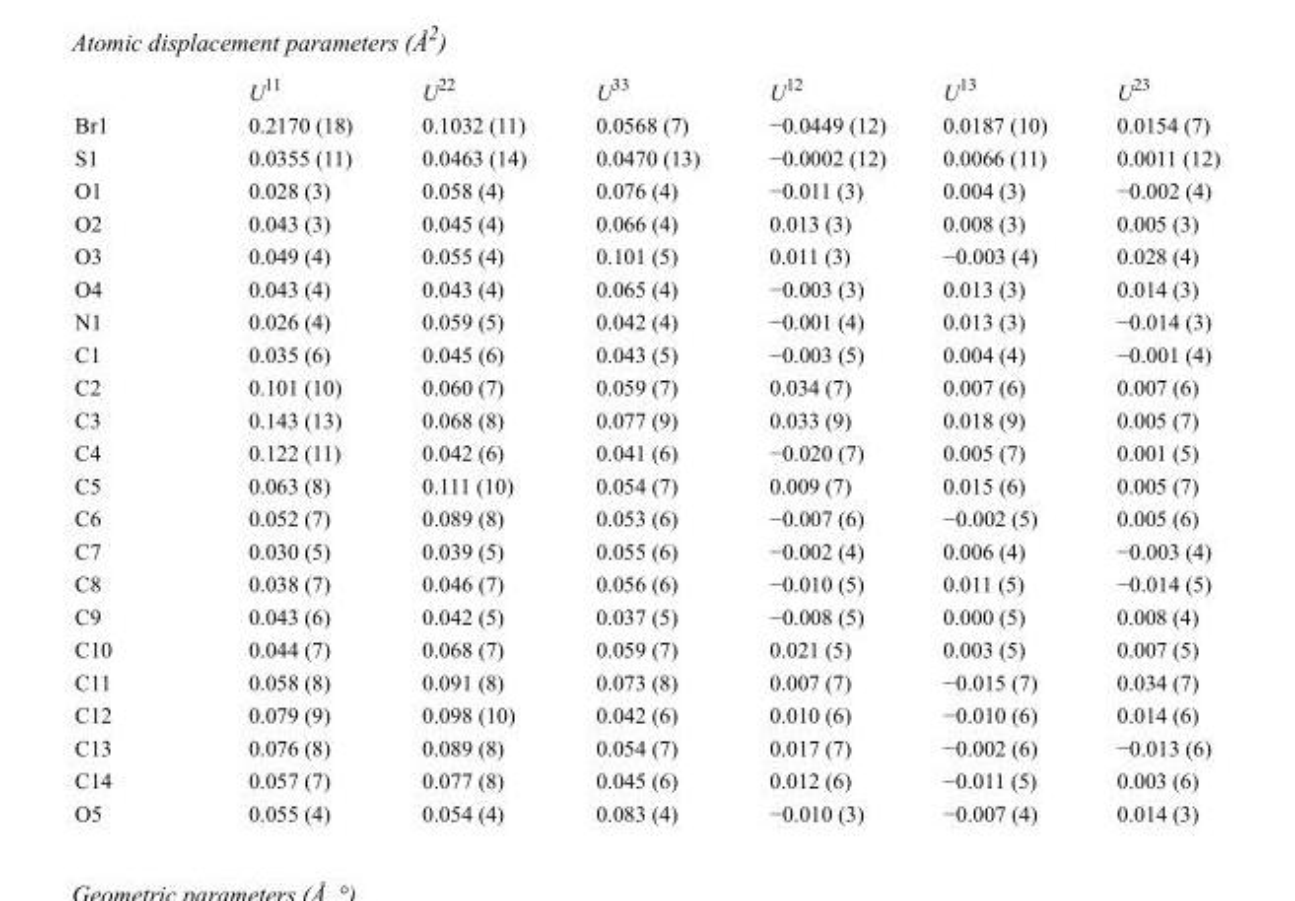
<table><thead><tr><td></td><td>U<sup>11</sup></td><td>U<sup>22</sup></td><td>U<sup>33</sup></td><td>U<sup>12</sup></td><td>U<sup>13</sup></td><td>U<sup>23</sup></td></tr></thead><tbody><tr><td>Br1</td><td>0.2170 (18)</td><td>0.1032 (11)</td><td>0.0568 (7)</td><td>−0.0449 (12)</td><td>0.0187 (10)</td><td>0.0154 (7)</td></tr><tr><td>S1</td><td>0.0355 (11)</td><td>0.0463 (14)</td><td>0.0470 (13)</td><td>−0.0002 (12)</td><td>0.0066 (11)</td><td>0.0011 (12)</td></tr><tr><td>O1</td><td>0.028 (3)</td><td>0.058 (4)</td><td>0.076 (4)</td><td>−0.011 (3)</td><td>0.004 (3)</td><td>−0.002 (4)</td></tr><tr><td>O2</td><td>0.043 (3)</td><td>0.045 (4)</td><td>0.066 (4)</td><td>0.013 (3)</td><td>0.008 (3)</td><td>0.005 (3)</td></tr><tr><td>O3</td><td>0.049 (4)</td><td>0.055 (4)</td><td>0.101 (5)</td><td>0.011 (3)</td><td>−0.003 (4)</td><td>0.028 (4)</td></tr><tr><td>O4</td><td>0.043 (4)</td><td>0.043 (4)</td><td>0.065 (4)</td><td>−0.003 (3)</td><td>0.013 (3)</td><td>0.014 (3)</td></tr><tr><td>N1</td><td>0.026 (4)</td><td>0.059 (5)</td><td>0.042 (4)</td><td>−0.001 (4)</td><td>0.013 (3)</td><td>−0.014 (3)</td></tr><tr><td>C1</td><td>0.035 (6)</td><td>0.045 (6)</td><td>0.043 (5)</td><td>−0.003 (5)</td><td>0.004 (4)</td><td>−0.001 (4)</td></tr><tr><td>C2</td><td>0.101 (10)</td><td>0.060 (7)</td><td>0.059 (7)</td><td>0.034 (7)</td><td>0.007 (6)</td><td>0.007 (6)</td></tr><tr><td>C3</td><td>0.143 (13)</td><td>0.068 (8)</td><td>0.077 (9)</td><td>0.033 (9)</td><td>0.018 (9)</td><td>0.005 (7)</td></tr><tr><td>C4</td><td>0.122 (11)</td><td>0.042 (6)</td><td>0.041 (6)</td><td>−0.020 (7)</td><td>0.005 (7)</td><td>0.001 (5)</td></tr><tr><td>C5</td><td>0.063 (8)</td><td>0.111 (10)</td><td>0.054 (7)</td><td>0.009 (7)</td><td>0.015 (6)</td><td>0.005 (7)</td></tr><tr><td>C6</td><td>0.052 (7)</td><td>0.089 (8)</td><td>0.053 (6)</td><td>−0.007 (6)</td><td>−0.002 (5)</td><td>0.005 (6)</td></tr><tr><td>C7</td><td>0.030 (5)</td><td>0.039 (5)</td><td>0.055 (6)</td><td>−0.002 (4)</td><td>0.006 (4)</td><td>−0.003 (4)</td></tr><tr><td>C8</td><td>0.038 (7)</td><td>0.046 (7)</td><td>0.056 (6)</td><td>−0.010 (5)</td><td>0.011 (5)</td><td>−0.014 (5)</td></tr><tr><td>C9</td><td>0.043 (6)</td><td>0.042 (5)</td><td>0.037 (5)</td><td>−0.008 (5)</td><td>0.000 (5)</td><td>0.008 (4)</td></tr><tr><td>C10</td><td>0.044 (7)</td><td>0.068 (7)</td><td>0.059 (7)</td><td>0.021 (5)</td><td>0.003 (5)</td><td>0.007 (5)</td></tr><tr><td>C11</td><td>0.058 (8)</td><td>0.091 (8)</td><td>0.073 (8)</td><td>0.007 (7)</td><td>−0.015 (7)</td><td>0.034 (7)</td></tr><tr><td>C12</td><td>0.079 (9)</td><td>0.098 (10)</td><td>0.042 (6)</td><td>0.010 (6)</td><td>−0.010 (6)</td><td>0.014 (6)</td></tr><tr><td>C13</td><td>0.076 (8)</td><td>0.089 (8)</td><td>0.054 (7)</td><td>0.017 (7)</td><td>−0.002 (6)</td><td>−0.013 (6)</td></tr><tr><td>C14</td><td>0.057 (7)</td><td>0.077 (8)</td><td>0.045 (6)</td><td>0.012 (6)</td><td>−0.011 (5)</td><td>0.003 (6)</td></tr><tr><td>O5</td><td>0.055 (4)</td><td>0.054 (4)</td><td>0.083 (4)</td><td>−0.010 (3)</td><td>−0.007 (4)</td><td>0.014 (3)</td></tr></tbody></table>